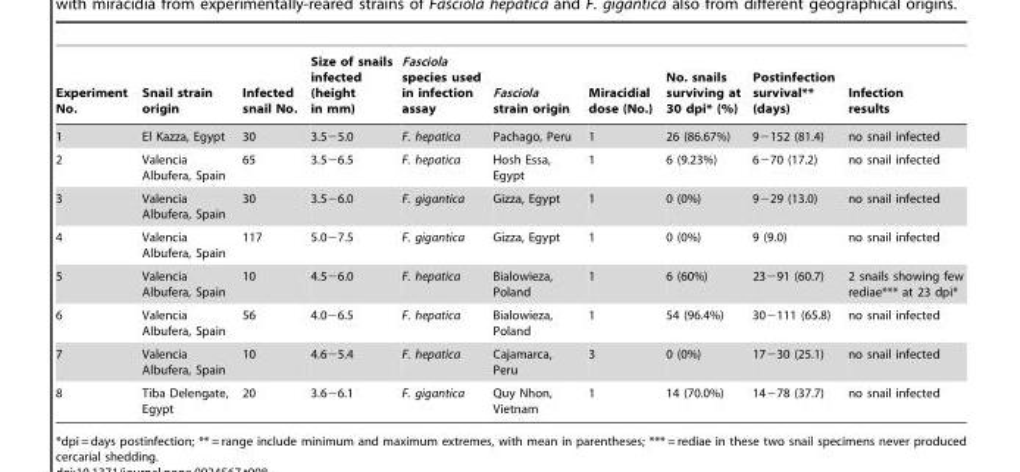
<table><thead><tr><td>Experiment No.</td><td>Snail strain origin</td><td>Infected snail No.</td><td>Size of snails infected (height in mm)</td><td>Fasciola species used in infection assay</td><td>Fasciola strain origin</td><td>Miracidial dose (No.)</td><td>No. snails surviving at 30 dpi* (%)</td><td>Postinfection survival** (days)</td><td>Infection results</td></tr></thead><tbody><tr><td>1</td><td>El Kazza, Egypt</td><td>30</td><td>3.5−5.0</td><td>F. hepatica</td><td>Pachago, Peru</td><td>1</td><td>26 (86.67%)</td><td>9−152 (81.4)</td><td>no snail infected</td></tr><tr><td>2</td><td>Valencia Albufera, Spain</td><td>65</td><td>3.5−6.5</td><td>F. hepatica</td><td>Hosh Essa, Egypt</td><td>1</td><td>6 (9.23%)</td><td>6−70 (17.2)</td><td>no snail infected</td></tr><tr><td>3</td><td>Valencia Albufera, Spain</td><td>30</td><td>3.5−6.0</td><td>F. gigantica</td><td>Gizza, Egypt</td><td>1</td><td>0 (0%)</td><td>9−29 (13.0)</td><td>no snail infected</td></tr><tr><td>4</td><td>Valencia Albufera, Spain</td><td>117</td><td>5.0−7.5</td><td>F. gigantica</td><td>Gizza, Egypt</td><td>1</td><td>0 (0%)</td><td>9 (9.0)</td><td>no snail infected</td></tr><tr><td>5</td><td>Valencia Albufera, Spain</td><td>10</td><td>4.5−6.0</td><td>F. hepatica</td><td>Bialowieza, Poland</td><td>1</td><td>6 (60%)</td><td>23−91 (60.7)</td><td>2 snails showing few rediae*** at 23 dpi*</td></tr><tr><td>6</td><td>Valencia Albufera, Spain</td><td>56</td><td>4.0−6.5</td><td>F. hepatica</td><td>Bialowieza, Poland</td><td>1</td><td>54 (96.4%)</td><td>30−111 (65.8)</td><td>no snail infected</td></tr><tr><td>7</td><td>Valencia Albufera, Spain</td><td>10</td><td>4.6−5.4</td><td>F. hepatica</td><td>Cajamarca, Peru</td><td>3</td><td>0 (0%)</td><td>17−30 (25.1)</td><td>no snail infected</td></tr><tr><td>8</td><td>Tiba Delengate, Egypt</td><td>20</td><td>3.6−6.1</td><td>F. gigantica</td><td>Quy Nhon, Vietnam</td><td>1</td><td>14 (70.0%)</td><td>14−78 (37.7)</td><td>no snail infected</td></tr></tbody></table>